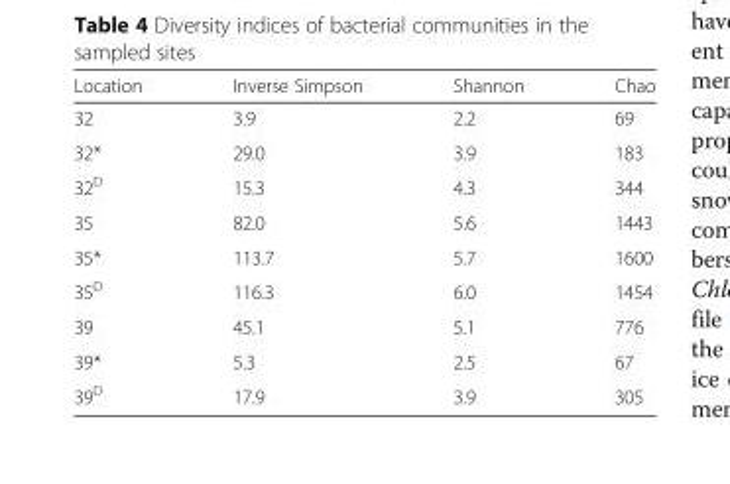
<table><thead><tr><td>Location</td><td>Inverse Simpson</td><td>Shannon</td><td>Chao</td></tr></thead><tbody><tr><td>32</td><td>3.9</td><td>2.2</td><td>69</td></tr><tr><td>32*</td><td>29.0</td><td>3.9</td><td>183</td></tr><tr><td>32<sup>D</sup></td><td>15.3</td><td>4.3</td><td>344</td></tr><tr><td>35</td><td>82.0</td><td>5.6</td><td>1443</td></tr><tr><td>35*</td><td>113.7</td><td>5.7</td><td>1600</td></tr><tr><td>35<sup>D</sup></td><td>116.3</td><td>6.0</td><td>1454</td></tr><tr><td>39</td><td>45.1</td><td>5.1</td><td>776</td></tr><tr><td>39*</td><td>5.3</td><td>2.5</td><td>67</td></tr><tr><td>39<sup>D</sup></td><td>17.9</td><td>3.9</td><td>305</td></tr></tbody></table>